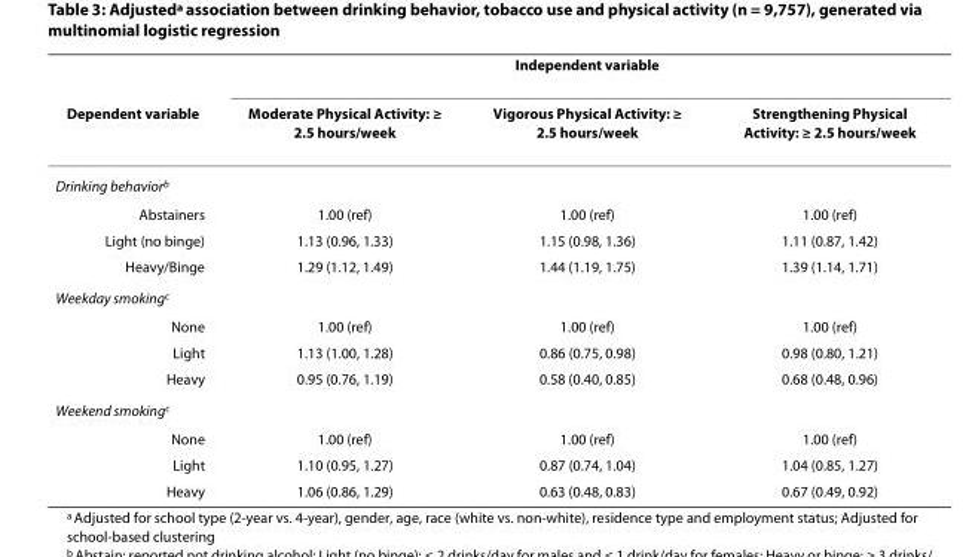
<table><thead><tr><td rowspan="2">Dependent variable</td><td colspan="3">Independent variable</td></tr><tr><td>Moderate Physical Activity: ≥ 2.5 hours/week</td><td>Vigorous Physical Activity: ≥ 2.5 hours/week</td><td>Strengthening Physical Activity: ≥ 2.5 hours/week</td></tr></thead><tbody><tr><td colspan="4">Drinking behavior<sup>b</sup></td></tr><tr><td>Abstainers</td><td>1.00 (ref)</td><td>1.00 (ref)</td><td>1.00 (ref)</td></tr><tr><td>Light (no binge)</td><td>1.13 (0.96, 1.33)</td><td>1.15 (0.98, 1.36)</td><td>1.11 (0.87, 1.42)</td></tr><tr><td>Heavy/Binge</td><td>1.29 (1.12, 1.49)</td><td>1.44 (1.19, 1.75)</td><td>1.39 (1.14, 1.71)</td></tr><tr><td colspan="4">Weekday smoking<sup>c</sup></td></tr><tr><td>None</td><td>1.00 (ref)</td><td>1.00 (ref)</td><td>1.00 (ref)</td></tr><tr><td>Light</td><td>1.13 (1.00, 1.28)</td><td>0.86 (0.75, 0.98)</td><td>0.98 (0.80, 1.21)</td></tr><tr><td>Heavy</td><td>0.95 (0.76, 1.19)</td><td>0.58 (0.40, 0.85)</td><td>0.68 (0.48, 0.96)</td></tr><tr><td colspan="4">Weekend smoking<sup>c</sup></td></tr><tr><td>None</td><td>1.00 (ref)</td><td>1.00 (ref)</td><td>1.00 (ref)</td></tr><tr><td>Light</td><td>1.10 (0.95, 1.27)</td><td>0.87 (0.74, 1.04)</td><td>1.04 (0.85, 1.27)</td></tr><tr><td>Heavy</td><td>1.06 (0.86, 1.29)</td><td>0.63 (0.48, 0.83)</td><td>0.67 (0.49, 0.92)</td></tr></tbody></table>